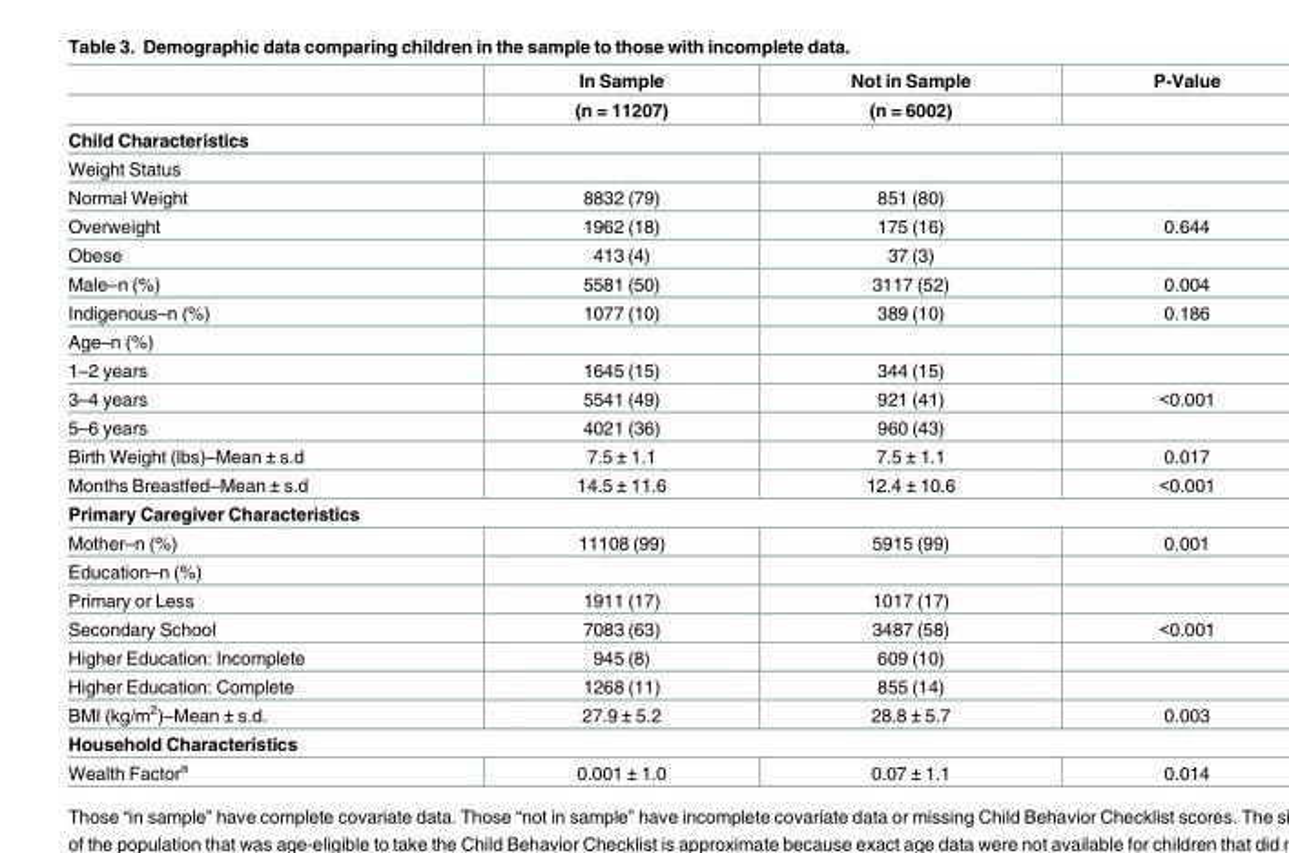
<table><thead><tr><td rowspan="2"></td><td rowspan="2">In Sample (n = 11207)</td><td rowspan="2">Not in Sample (n = 6002)</td><td rowspan="2">P-Value</td></tr><tr></tr></thead><tbody><tr><td colspan="4">Child Characteristics</td></tr><tr><td colspan="4">Weight Status</td></tr><tr><td>Normal Weight</td><td>8832 (79)</td><td>851 (80)</td><td></td></tr><tr><td>Overweight</td><td>1962 (18)</td><td>175 (16)</td><td>0.644</td></tr><tr><td>Obese</td><td>413 (4)</td><td>37 (3)</td><td></td></tr><tr><td>Male–n (%)</td><td>5581 (50)</td><td>3117 (52)</td><td>0.004</td></tr><tr><td>Indigenous–n (%)</td><td>1077 (10)</td><td>389 (10)</td><td>0.186</td></tr><tr><td colspan="4">Age–n (%)</td></tr><tr><td>1–2 years</td><td>1645 (15)</td><td>344 (15)</td><td></td></tr><tr><td>3–4 years</td><td>5541 (49)</td><td>921 (41)</td><td>&lt;0.001</td></tr><tr><td>5–6 years</td><td>4021 (36)</td><td>960 (43)</td><td></td></tr><tr><td>Birth Weight (lbs)–Mean ± s.d</td><td>7.5 ± 1.1</td><td>7.5 ± 1.1</td><td>0.017</td></tr><tr><td>Months Breastfed–Mean ± s.d</td><td>14.5 ± 11.6</td><td>12.4 ± 10.6</td><td>&lt;0.001</td></tr><tr><td colspan="4">Primary Caregiver Characteristics</td></tr><tr><td>Mother–n (%)</td><td>11108 (99)</td><td>5915 (99)</td><td>0.001</td></tr><tr><td colspan="4">Education–n (%)</td></tr><tr><td>Primary or Less</td><td>1911 (17)</td><td>1017 (17)</td><td></td></tr><tr><td>Secondary School</td><td>7083 (63)</td><td>3487 (58)</td><td>&lt;0.001</td></tr><tr><td>Higher Education: Incomplete</td><td>945 (8)</td><td>609 (10)</td><td></td></tr><tr><td>Higher Education: Complete</td><td>1268 (11)</td><td>855 (14)</td><td></td></tr><tr><td>BMI (kg/m<sup>2</sup>)–Mean ± s.d.</td><td>27.9 ± 5.2</td><td>28.8 ± 5.7</td><td>0.003</td></tr><tr><td colspan="4">Household Characteristics</td></tr><tr><td>Wealth Factor<sup>a</sup></td><td>0.001 ± 1.0</td><td>0.07 ± 1.1</td><td>0.014</td></tr></tbody></table>